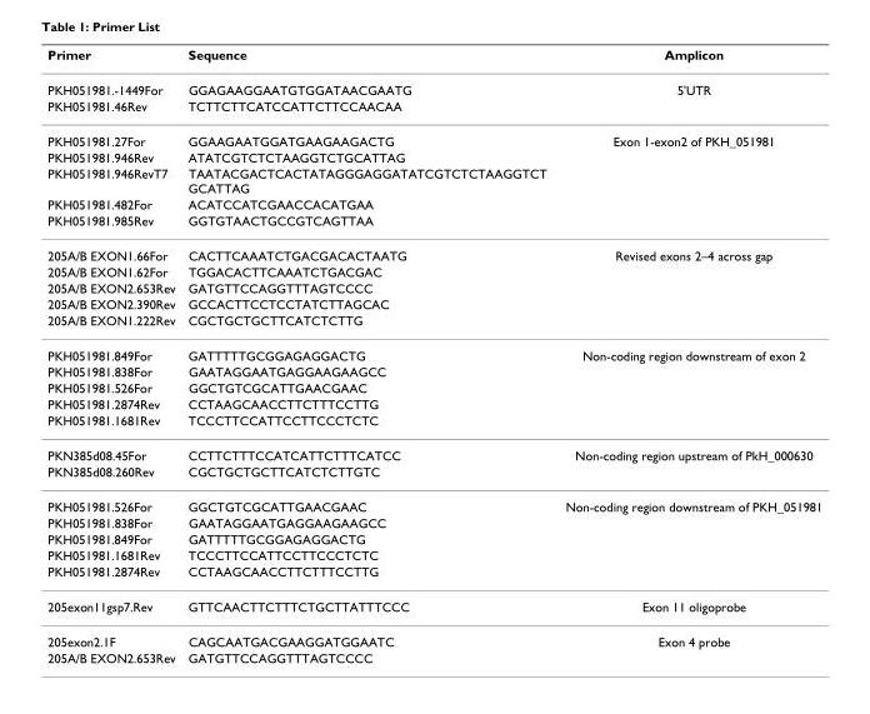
<table><thead><tr><td>Primer</td><td>Sequence</td><td>Amplicon</td></tr></thead><tbody><tr><td>PKH051981.-1449For</td><td>GGAGAAGGAATGTGGATAACGAATG</td><td>5&#x27;UTR</td></tr><tr><td>PKH051981.46Rev</td><td>TCTTCTTCATCCATTCTTCCAACAA</td><td></td></tr><tr><td>PKH051981.27For</td><td>GGAAGAATGGATGAAGAAGACTG</td><td>Exon 1-exon2 of PKH_051981</td></tr><tr><td>PKH051981.946Rev</td><td>ATATCGTCTCTAAGGTCTGCATTAG</td><td></td></tr><tr><td>PKH051981.946RevT7</td><td>TAATACGACTCACTATAGGGAGGATATCGTCTCTAAGGTCT GCATTAG</td><td></td></tr><tr><td>PKH051981.482For</td><td>ACATCCATCGAACCACATGAA</td><td></td></tr><tr><td>PKH051981.985Rev</td><td>GGTGTAACTGCCGTCAGTTAA</td><td></td></tr><tr><td>205A/B EXON1.66For</td><td>CACTTCAAATCTGACGACACTAATG</td><td>Revised exons 2–4 across gap</td></tr><tr><td>205A/B EXON1.62For</td><td>TGGACACTTCAAATCTGACGAC</td><td></td></tr><tr><td>205A/B EXON2.653Rev</td><td>GATGTTCCAGGTTTAGTCCCC</td><td></td></tr><tr><td>205A/B EXON2.390Rev</td><td>GCCACTTCCTCCTATCTTAGCAC</td><td></td></tr><tr><td>205A/B EXON1.222Rev</td><td>CGCTGCTGCTTCATCTCTTG</td><td></td></tr><tr><td>PKH051981.849For</td><td>GATTTTTGCGGAGAGGACTG</td><td>Non-coding region downstream of exon 2</td></tr><tr><td>PKH051981.838For</td><td>GAATAGGAATGAGGAAGAAGCC</td><td></td></tr><tr><td>PKH051981.526For</td><td>GGCTGTCGCATTGAACGAAC</td><td></td></tr><tr><td>PKH051981.2874Rev</td><td>CCTAAGCAACCTTCTTTCCTTG</td><td></td></tr><tr><td>PKH051981.1681Rev</td><td>TCCCTTCCATTCCTTCCCTCTC</td><td></td></tr><tr><td>PKN385d08.45For</td><td>CCTTCTTTCCATCATTCTTTCATCC</td><td>Non-coding region upstream of PkH_000630</td></tr><tr><td>PKN385d08.260Rev</td><td>CGCTGCTGCTTCATCTCTTGTC</td><td></td></tr><tr><td>PKH051981.526For</td><td>GGCTGTCGCATTGAACGAAC</td><td>Non-coding region downstream of PKH_051981</td></tr><tr><td>PKH051981.838For</td><td>GAATAGGAATGAGGAAGAAGCC</td><td></td></tr><tr><td>PKH051981.849For</td><td>GATTTTTGCGGAGAGGACTG</td><td></td></tr><tr><td>PKH051981.1681Rev</td><td>TCCCTTCCATTCCTTCCCTCTC</td><td></td></tr><tr><td>PKH051981.2874Rev</td><td>CCTAAGCAACCTTCTTTCCTTG</td><td></td></tr><tr><td>205exon11gsp7.Rev</td><td>GTTCAACTTCTTTCTGCTTATTTCCC</td><td>Exon 11 oligoprobe</td></tr><tr><td>205exon2.1F</td><td>CAGCAATGACGAAGGATGGAATC</td><td>Exon 4 probe</td></tr><tr><td>205A/B EXON2.653Rev</td><td>GATGTTCCAGGTTTAGTCCCC</td><td></td></tr></tbody></table>